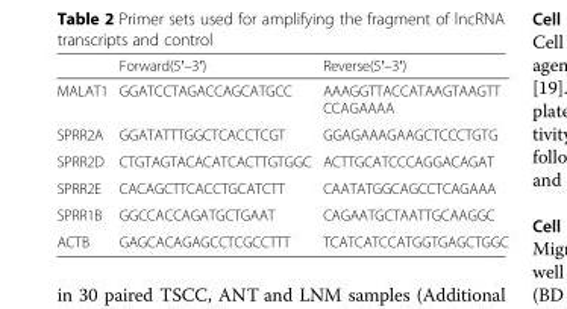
<table><thead><tr><td></td><td>Forward(5′–3′)</td><td>Reverse(5′–3′)</td></tr></thead><tbody><tr><td>MALAT1</td><td>GGATCCTAGACCAGCATGCC</td><td>AAAGGTTACCATAAGTAAGTT CCAGAAAA</td></tr><tr><td>SPRR2A</td><td>GGATATTTGGCTCACCTCGT</td><td>GGAGAAAGAAGCTCCCTGTG</td></tr><tr><td>SPRR2D</td><td>CTGTAGTACACATCACTTGTGGC</td><td>ACTTGCATCCCAGGACAGAT</td></tr><tr><td>SPRR2E</td><td>CACAGCTTCACCTGCATCTT</td><td>CAATATGGCAGCCTCAGAAA</td></tr><tr><td>SPRR1B</td><td>GGCCACCAGATGCTGAAT</td><td>CAGAATGCTAATTGCAAGGC</td></tr><tr><td>ACTB</td><td>GAGCACAGAGCCTCGCCTTT</td><td>TCATCATCCATGGTGAGCTGGC</td></tr></tbody></table>